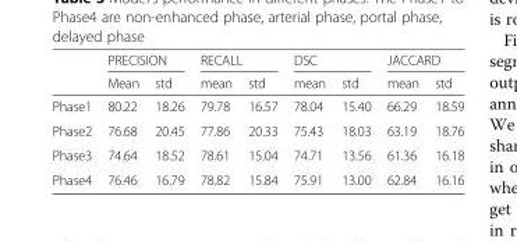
<table><thead><tr><td rowspan="2"></td><td colspan="2">PRECISION</td><td colspan="2">RECALL</td><td colspan="2">DSC</td><td colspan="2">JACCARD</td></tr><tr><td>Mean</td><td>std</td><td>mean</td><td>std</td><td>mean</td><td>std</td><td>mean</td><td>std</td></tr></thead><tbody><tr><td>Phase1</td><td>80.22</td><td>18.26</td><td>79.78</td><td>16.57</td><td>78.04</td><td>15.40</td><td>66.29</td><td>18.59</td></tr><tr><td>Phase2</td><td>76.68</td><td>20.45</td><td>77.86</td><td>20.33</td><td>75.43</td><td>18.03</td><td>63.19</td><td>18.76</td></tr><tr><td>Phase3</td><td>74.64</td><td>18.52</td><td>78.61</td><td>15.04</td><td>74.71</td><td>13.56</td><td>61.36</td><td>16.18</td></tr><tr><td>Phase4</td><td>76.46</td><td>16.79</td><td>78.82</td><td>15.84</td><td>75.91</td><td>13.00</td><td>62.84</td><td>16.16</td></tr></tbody></table>